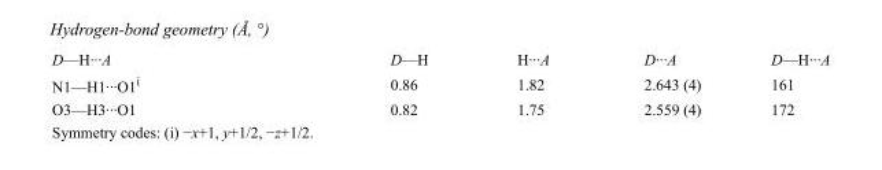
<table><tbody><tr><td>D—H···A</td><td>D—H</td><td>H···A</td><td>D···A</td><td>D—H···A</td></tr><tr><td>N1—H1···O1<sup>i</sup></td><td>0.86</td><td>1.82</td><td>2.643 (4)</td><td>161</td></tr><tr><td>O3—H3···O1</td><td>0.82</td><td>1.75</td><td>2.559 (4)</td><td>172</td></tr></tbody></table>